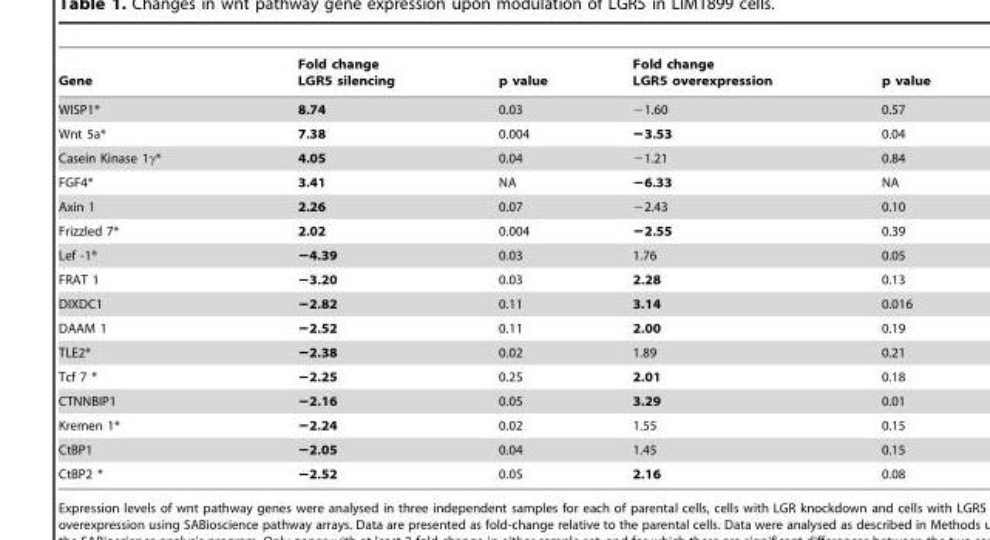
<table><thead><tr><td>Gene</td><td>Fold change LGR5 silencing</td><td>p value</td><td>Fold change LGR5 overexpression</td><td>p value</td></tr></thead><tbody><tr><td>WISP1*</td><td>8.74</td><td>0.03</td><td>−1.60</td><td>0.57</td></tr><tr><td>Wnt 5a*</td><td>7.38</td><td>0.004</td><td>−3.53</td><td>0.04</td></tr><tr><td>Casein Kinase 1γ*</td><td>4.05</td><td>0.04</td><td>−1.21</td><td>0.84</td></tr><tr><td>FGF4*</td><td>3.41</td><td>NA</td><td>−6.33</td><td>NA</td></tr><tr><td>Axin 1</td><td>2.26</td><td>0.07</td><td>−2.43</td><td>0.10</td></tr><tr><td>Frizzled 7*</td><td>2.02</td><td>0.004</td><td>−2.55</td><td>0.39</td></tr><tr><td>Lef -1*</td><td>−4.39</td><td>0.03</td><td>1.76</td><td>0.05</td></tr><tr><td>FRAT 1</td><td>−3.20</td><td>0.03</td><td>2.28</td><td>0.13</td></tr><tr><td>DIXDC1</td><td>−2.82</td><td>0.11</td><td>3.14</td><td>0.016</td></tr><tr><td>DAAM 1</td><td>−2.52</td><td>0.11</td><td>2.00</td><td>0.19</td></tr><tr><td>TLE2*</td><td>−2.38</td><td>0.02</td><td>1.89</td><td>0.21</td></tr><tr><td>Tcf 7 *</td><td>−2.25</td><td>0.25</td><td>2.01</td><td>0.18</td></tr><tr><td>CTNNBIP1</td><td>−2.16</td><td>0.05</td><td>3.29</td><td>0.01</td></tr><tr><td>Kremen 1*</td><td>−2.24</td><td>0.02</td><td>1.55</td><td>0.15</td></tr><tr><td>CtBP1</td><td>−2.05</td><td>0.04</td><td>1.45</td><td>0.15</td></tr><tr><td>CtBP2 *</td><td>−2.52</td><td>0.05</td><td>2.16</td><td>0.08</td></tr></tbody></table>